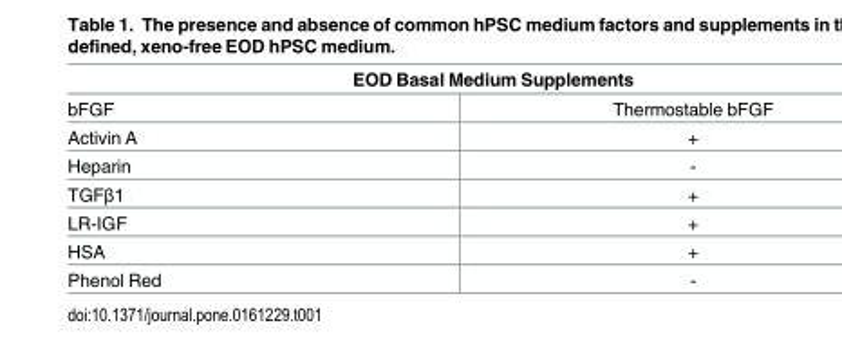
<table><thead><tr><td colspan="2">EOD Basal Medium Supplements</td></tr><tr><td>bFGF</td><td>Thermostable bFGF</td></tr></thead><tbody><tr><td>Activin A</td><td>+</td></tr><tr><td>Heparin</td><td>-</td></tr><tr><td>TGFβ1</td><td>+</td></tr><tr><td>LR-IGF</td><td>+</td></tr><tr><td>HSA</td><td>+</td></tr><tr><td>Phenol Red</td><td>-</td></tr></tbody></table>